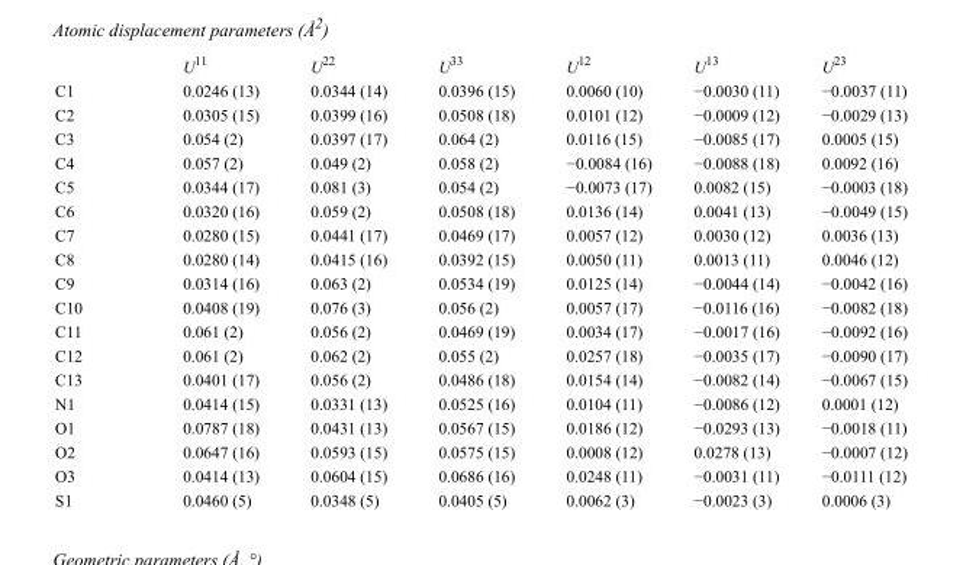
<table><thead><tr><td></td><td>U<sup>11</sup></td><td>U<sup>22</sup></td><td>U<sup>33</sup></td><td>U<sup>12</sup></td><td>U<sup>13</sup></td><td>U<sup>23</sup></td></tr></thead><tbody><tr><td>C1</td><td>0.0246 (13)</td><td>0.0344 (14)</td><td>0.0396 (15)</td><td>0.0060 (10)</td><td>−0.0030 (11)</td><td>−0.0037 (11)</td></tr><tr><td>C2</td><td>0.0305 (15)</td><td>0.0399 (16)</td><td>0.0508 (18)</td><td>0.0101 (12)</td><td>−0.0009 (12)</td><td>−0.0029 (13)</td></tr><tr><td>C3</td><td>0.054 (2)</td><td>0.0397 (17)</td><td>0.064 (2)</td><td>0.0116 (15)</td><td>−0.0085 (17)</td><td>0.0005 (15)</td></tr><tr><td>C4</td><td>0.057 (2)</td><td>0.049 (2)</td><td>0.058 (2)</td><td>−0.0084 (16)</td><td>−0.0088 (18)</td><td>0.0092 (16)</td></tr><tr><td>C5</td><td>0.0344 (17)</td><td>0.081 (3)</td><td>0.054 (2)</td><td>−0.0073 (17)</td><td>0.0082 (15)</td><td>−0.0003 (18)</td></tr><tr><td>C6</td><td>0.0320 (16)</td><td>0.059 (2)</td><td>0.0508 (18)</td><td>0.0136 (14)</td><td>0.0041 (13)</td><td>−0.0049 (15)</td></tr><tr><td>C7</td><td>0.0280 (15)</td><td>0.0441 (17)</td><td>0.0469 (17)</td><td>0.0057 (12)</td><td>0.0030 (12)</td><td>0.0036 (13)</td></tr><tr><td>C8</td><td>0.0280 (14)</td><td>0.0415 (16)</td><td>0.0392 (15)</td><td>0.0050 (11)</td><td>0.0013 (11)</td><td>0.0046 (12)</td></tr><tr><td>C9</td><td>0.0314 (16)</td><td>0.063 (2)</td><td>0.0534 (19)</td><td>0.0125 (14)</td><td>−0.0044 (14)</td><td>−0.0042 (16)</td></tr><tr><td>C10</td><td>0.0408 (19)</td><td>0.076 (3)</td><td>0.056 (2)</td><td>0.0057 (17)</td><td>−0.0116 (16)</td><td>−0.0082 (18)</td></tr><tr><td>C11</td><td>0.061 (2)</td><td>0.056 (2)</td><td>0.0469 (19)</td><td>0.0034 (17)</td><td>−0.0017 (16)</td><td>−0.0092 (16)</td></tr><tr><td>C12</td><td>0.061 (2)</td><td>0.062 (2)</td><td>0.055 (2)</td><td>0.0257 (18)</td><td>−0.0035 (17)</td><td>−0.0090 (17)</td></tr><tr><td>C13</td><td>0.0401 (17)</td><td>0.056 (2)</td><td>0.0486 (18)</td><td>0.0154 (14)</td><td>−0.0082 (14)</td><td>−0.0067 (15)</td></tr><tr><td>N1</td><td>0.0414 (15)</td><td>0.0331 (13)</td><td>0.0525 (16)</td><td>0.0104 (11)</td><td>−0.0086 (12)</td><td>0.0001 (12)</td></tr><tr><td>O1</td><td>0.0787 (18)</td><td>0.0431 (13)</td><td>0.0567 (15)</td><td>0.0186 (12)</td><td>−0.0293 (13)</td><td>−0.0018 (11)</td></tr><tr><td>O2</td><td>0.0647 (16)</td><td>0.0593 (15)</td><td>0.0575 (15)</td><td>0.0008 (12)</td><td>0.0278 (13)</td><td>−0.0007 (12)</td></tr><tr><td>O3</td><td>0.0414 (13)</td><td>0.0604 (15)</td><td>0.0686 (16)</td><td>0.0248 (11)</td><td>−0.0031 (11)</td><td>−0.0111 (12)</td></tr><tr><td>S1</td><td>0.0460 (5)</td><td>0.0348 (5)</td><td>0.0405 (5)</td><td>0.0062 (3)</td><td>−0.0023 (3)</td><td>0.0006 (3)</td></tr></tbody></table>